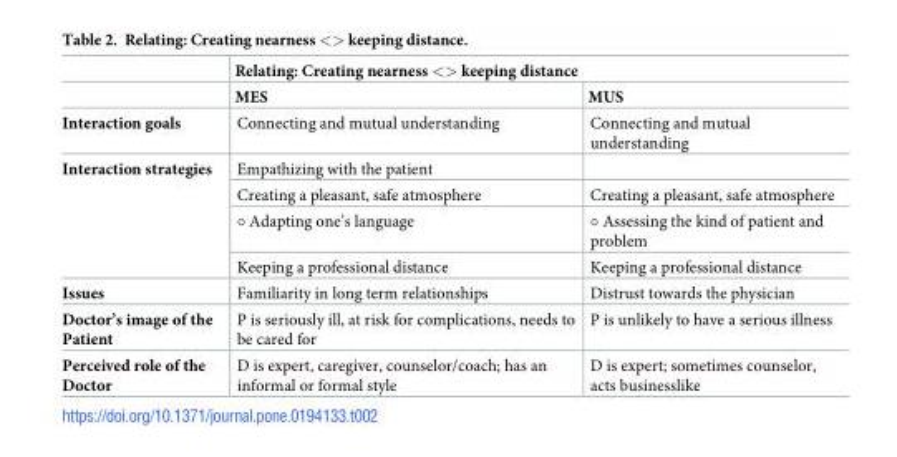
<table><thead><tr><td rowspan="2"></td><td colspan="2">Relating: Creating nearness &lt;&gt; keeping distance</td></tr><tr><td>MES</td><td>MUS</td></tr></thead><tbody><tr><td>Interaction goals</td><td>Connecting and mutual understanding</td><td>Connecting and mutual understanding</td></tr><tr><td rowspan="4">Interaction strategies</td><td>Empathizing with the patient</td><td></td></tr><tr><td>Creating a pleasant, safe atmosphere</td><td>Creating a pleasant, safe atmosphere</td></tr><tr><td>○ Adapting one’s language</td><td>○ Assessing the kind of patient and problem</td></tr><tr><td>Keeping a professional distance</td><td>Keeping a professional distance</td></tr><tr><td>Issues</td><td>Familiarity in long term relationships</td><td>Distrust towards the physician</td></tr><tr><td>Doctor’s image of the Patient</td><td>P is seriously ill, at risk for complications, needs to be cared for</td><td>P is unlikely to have a serious illness</td></tr><tr><td>Perceived role of the Doctor</td><td>D is expert, caregiver, counselor/coach; has an informal or formal style</td><td>D is expert; sometimes counselor, acts businesslike</td></tr></tbody></table>